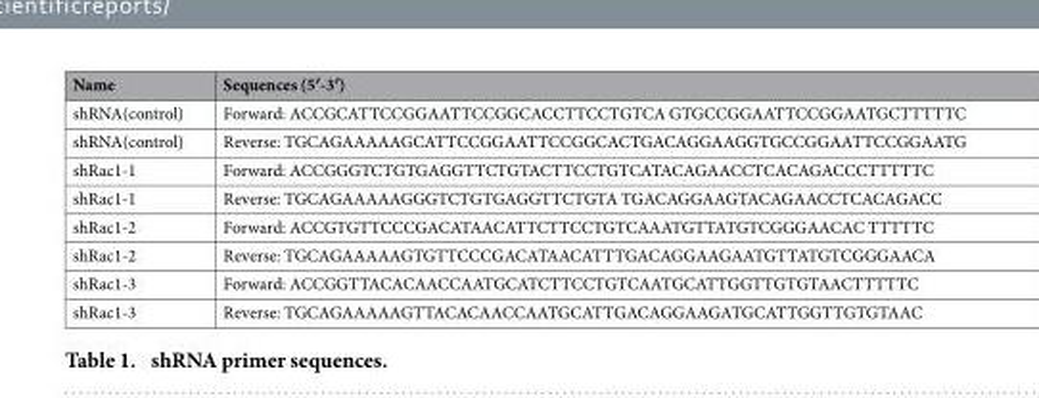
<table><thead><tr><td>Name</td><td>Sequences (5′-3′)</td></tr></thead><tbody><tr><td>shRNA(control)</td><td>Forward: ACCGCATTCCGGAATTCCGGCACCTTCCTGTCA GTGCCGGAATTCCGGAATGCTTTTTC</td></tr><tr><td>shRNA(control)</td><td>Reverse: TGCAGAAAAAGCATTCCGGAATTCCGGCACTGACAGGAAGGTGCCGGAATTCCGGAATG</td></tr><tr><td>shRac1-1</td><td>Forward: ACCGGGTCTGTGAGGTTCTGTACTTCCTGTCATACAGAACCTCACAGACCCTTTTTC</td></tr><tr><td>shRac1-1</td><td>Reverse: TGCAGAAAAAGGGTCTGTGAGGTTCTGTA TGACAGGAAGTACAGAACCTCACAGACC</td></tr><tr><td>shRac1-2</td><td>Forward: ACCGTGTTCCCGACATAACATTCTTCCTGTCAAATGTTATGTCGGGAACAC TTTTTC</td></tr><tr><td>shRac1-2</td><td>Reverse: TGCAGAAAAAGTGTTCCCGACATAACATTTGACAGGAAGAATGTTATGTCGGGAACA</td></tr><tr><td>shRac1-3</td><td>Forward: ACCGGTTACACAACCAATGCATCTTCCTGTCAATGCATTGGTTGTGTAACTTTTTC</td></tr><tr><td>shRac1-3</td><td>Reverse: TGCAGAAAAAGTTACACAACCAATGCATTGACAGGAAGATGCATTGGTTGTGTAAC</td></tr></tbody></table>